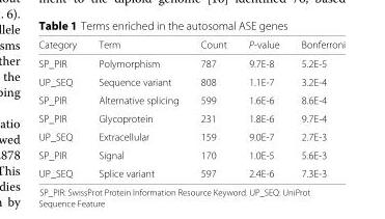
<table><thead><tr><td>Category</td><td>Term</td><td>Count</td><td>P-value</td><td>Bonferroni</td></tr></thead><tbody><tr><td>SP_PIR</td><td>Polymorphism</td><td>787</td><td>9.7E-8</td><td>5.2E-5</td></tr><tr><td>UP_SEQ</td><td>Sequence variant</td><td>808</td><td>1.1E-7</td><td>3.2E-4</td></tr><tr><td>SP_PIR</td><td>Alternative splicing</td><td>599</td><td>1.6E-6</td><td>8.6E-4</td></tr><tr><td>SP_PIR</td><td>Glycoprotein</td><td>231</td><td>1.8E-6</td><td>9.7E-4</td></tr><tr><td>UP_SEQ</td><td>Extracellular</td><td>159</td><td>9.0E-7</td><td>2.7E-3</td></tr><tr><td>SP_PIR</td><td>Signal</td><td>170</td><td>1.0E-5</td><td>5.6E-3</td></tr><tr><td>UP_SEQ</td><td>Splice variant</td><td>597</td><td>2.4E-6</td><td>7.3E-3</td></tr></tbody></table>